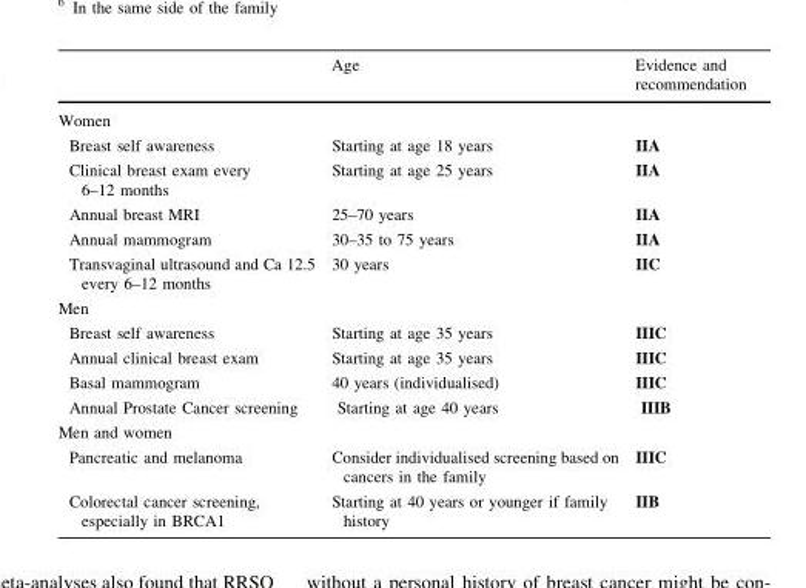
<table><thead><tr><td></td><td>Age</td><td>Evidence and recommendation</td></tr></thead><tbody><tr><td colspan="3">Women</td></tr><tr><td>Breast self awareness</td><td>Starting at age 18 years</td><td>IIA</td></tr><tr><td>Clinical breast exam every 6–12 months</td><td>Starting at age 25 years</td><td>IIA</td></tr><tr><td>Annual breast MRI</td><td>25–70 years</td><td>IIA</td></tr><tr><td>Annual mammogram</td><td>30–35 to 75 years</td><td>IIA</td></tr><tr><td>Transvaginal ultrasound and Ca 12.5 every 6–12 months</td><td>30 years</td><td>IIC</td></tr><tr><td colspan="3">Men</td></tr><tr><td>Breast self awareness</td><td>Starting at age 35 years</td><td>IIIC</td></tr><tr><td>Annual clinical breast exam</td><td>Starting at age 35 years</td><td>IIIC</td></tr><tr><td>Basal mammogram</td><td>40 years (individualised)</td><td>IIIC</td></tr><tr><td>Annual Prostate Cancer screening</td><td>Starting at age 40 years</td><td>IIIB</td></tr><tr><td colspan="3">Men and women</td></tr><tr><td>Pancreatic and melanoma</td><td>Consider individualised screening based on cancers in the family</td><td>IIIC</td></tr><tr><td>Colorectal cancer screening, especially in BRCA1</td><td>Starting at 40 years or younger if family history</td><td>IIB</td></tr></tbody></table>